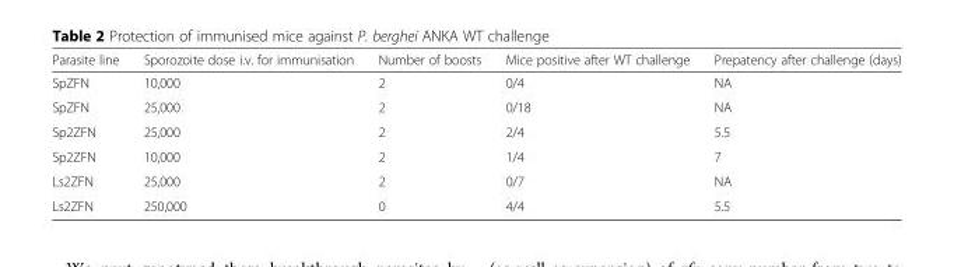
<table><thead><tr><td>Parasite line</td><td>Sporozoite dose i.v. for immunisation</td><td>Number of boosts</td><td>Mice positive after WT challenge</td><td>Prepatency after challenge (days)</td></tr></thead><tbody><tr><td>SpZFN</td><td>10,000</td><td>2</td><td>0/4</td><td>NA</td></tr><tr><td>SpZFN</td><td>25,000</td><td>2</td><td>0/18</td><td>NA</td></tr><tr><td>Sp2ZFN</td><td>25,000</td><td>2</td><td>2/4</td><td>5.5</td></tr><tr><td>Sp2ZFN</td><td>10,000</td><td>2</td><td>1/4</td><td>7</td></tr><tr><td>Ls2ZFN</td><td>25,000</td><td>2</td><td>0/7</td><td>NA</td></tr><tr><td>Ls2ZFN</td><td>250,000</td><td>0</td><td>4/4</td><td>5.5</td></tr></tbody></table>